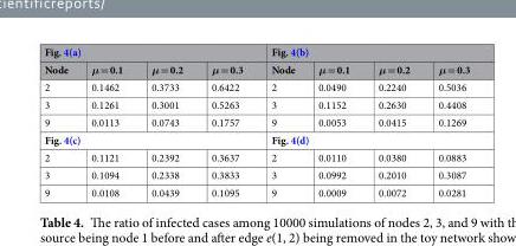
<table><thead><tr><td colspan="4">Fig. 4(a)</td><td colspan="4">Fig. 4(b)</td></tr><tr><td>Node</td><td>μ = 0.1</td><td>μ = 0.2</td><td>μ = 0.3</td><td>Node</td><td>μ = 0.1</td><td>μ = 0.2</td><td>μ = 0.3</td></tr></thead><tbody><tr><td>2</td><td>0.1462</td><td>0.3733</td><td>0.6422</td><td>2</td><td>0.0490</td><td>0.2240</td><td>0.5036</td></tr><tr><td>3</td><td>0.1261</td><td>0.3001</td><td>0.5263</td><td>3</td><td>0.1152</td><td>0.2630</td><td>0.4408</td></tr><tr><td>9</td><td>0.0113</td><td>0.0743</td><td>0.1757</td><td>9</td><td>0.0053</td><td>0.0415</td><td>0.1269</td></tr><tr><td colspan="4">Fig. 4(c)</td><td colspan="4">Fig. 4(d)</td></tr><tr><td>2</td><td>0.1121</td><td>0.2392</td><td>0.3637</td><td>2</td><td>0.0110</td><td>0.0380</td><td>0.0883</td></tr><tr><td>3</td><td>0.1094</td><td>0.2338</td><td>0.3833</td><td>3</td><td>0.0992</td><td>0.2010</td><td>0.3087</td></tr><tr><td>9</td><td>0.0108</td><td>0.0439</td><td>0.1095</td><td>9</td><td>0.0009</td><td>0.0072</td><td>0.0281</td></tr></tbody></table>